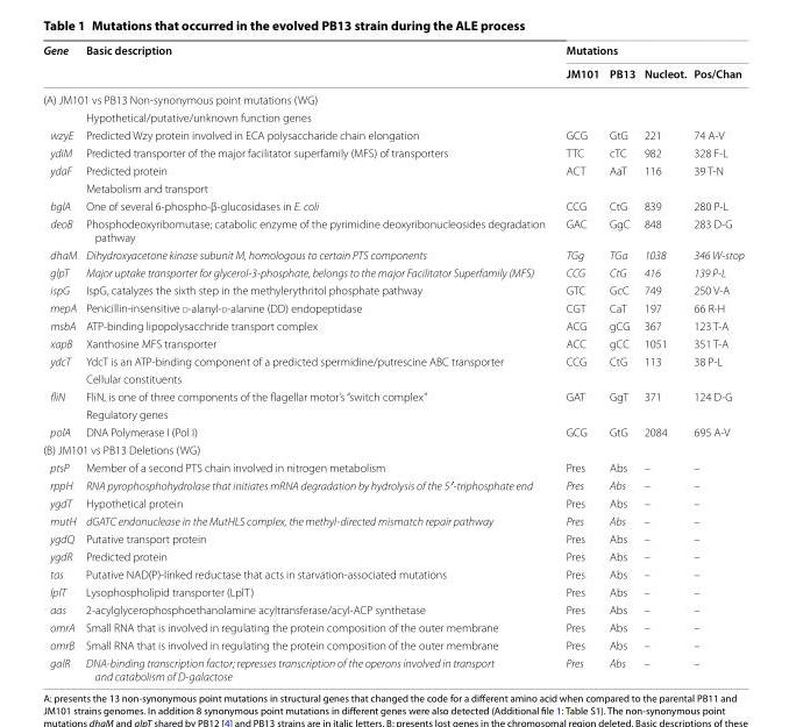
<table><thead><tr><td rowspan="2">Gene</td><td rowspan="2">Basic description</td><td colspan="4">Mutations</td></tr><tr><td>JM101</td><td>PB13</td><td>Nucleot.</td><td>Pos/Chan</td></tr></thead><tbody><tr><td colspan="6">(A) JM101 vs PB13 Non‑synonymous point mutations (WG)</td></tr><tr><td></td><td>Hypothetical/putative/unknown function genes</td><td></td><td></td><td></td><td></td></tr><tr><td>wzyE</td><td>Predicted Wzy protein involved in ECA polysaccharide chain elongation</td><td>GCG</td><td>GtG</td><td>221</td><td>74 A‑V</td></tr><tr><td>ydiM</td><td>Predicted transporter of the major facilitator superfamily (MFS) of transporters</td><td>TTC</td><td>cTC</td><td>982</td><td>328 F‑L</td></tr><tr><td rowspan="2">ydaF</td><td>Predicted protein</td><td>ACT</td><td>AaT</td><td>116</td><td>39 T‑N</td></tr><tr><td>Metabolism and transport</td><td></td><td></td><td></td><td></td></tr><tr><td>bglA</td><td>One of several 6‑phospho‑β‑glucosidases in E. coli</td><td>CCG</td><td>CtG</td><td>839</td><td>280 P‑L</td></tr><tr><td>deoB</td><td>Phosphodeoxyribomutase; catabolic enzyme of the pyrimidine deoxyribonucleosides degradation pathway</td><td>GAC</td><td>GgC</td><td>848</td><td>283 D‑G</td></tr><tr><td>dhaM</td><td>Dihydroxyacetone kinase subunit M, homologous to certain PTS components</td><td>TGg</td><td>TGa</td><td>1038</td><td>346 W-stop</td></tr><tr><td>glpT</td><td>Major uptake transporter for glycerol-3-phosphate, belongs to the major Facilitator Superfamily (MFS)</td><td>CCG</td><td>CtG</td><td>416</td><td>139 P-L</td></tr><tr><td>ispG</td><td>IspG, catalyzes the sixth step in the methylerythritol phosphate pathway</td><td>GTC</td><td>GcC</td><td>749</td><td>250 V‑A</td></tr><tr><td>mepA</td><td>Penicillin‑insensitive d‑alanyl‑d‑alanine (DD) endopeptidase</td><td>CGT</td><td>CaT</td><td>197</td><td>66 R‑H</td></tr><tr><td>msbA</td><td>ATP‑binding lipopolysacchride transport complex</td><td>ACG</td><td>gCG</td><td>367</td><td>123 T‑A</td></tr><tr><td>xapB</td><td>Xanthosine MFS transporter</td><td>ACC</td><td>gCC</td><td>1051</td><td>351 T‑A</td></tr><tr><td rowspan="2">ydcT</td><td>YdcT is an ATP‑binding component of a predicted spermidine/putrescine ABC transporter</td><td>CCG</td><td>CtG</td><td>113</td><td>38 P‑L</td></tr><tr><td>Cellular constituents</td><td></td><td></td><td></td><td></td></tr><tr><td rowspan="2">fliN</td><td>FliN, is one of three components of the flagellar motor’s “switch complex”</td><td>GAT</td><td>GgT</td><td>371</td><td>124 D‑G</td></tr><tr><td>Regulatory genes</td><td></td><td></td><td></td><td></td></tr><tr><td>polA</td><td>DNA Polymerase I (Pol I)</td><td>GCG</td><td>GtG</td><td>2084</td><td>695 A‑V</td></tr><tr><td colspan="6">(B) JM101 vs PB13 Deletions (WG)</td></tr><tr><td>ptsP</td><td>Member of a second PTS chain involved in nitrogen metabolism</td><td>Pres</td><td>Abs</td><td>–</td><td>–</td></tr><tr><td>rppH</td><td>RNA pyrophosphohydrolase that initiates mRNA degradation by hydrolysis of the 5′-triphosphate end</td><td>Pres</td><td>Abs</td><td>–</td><td>–</td></tr><tr><td>ygdT</td><td>Hypothetical protein</td><td>Pres</td><td>Abs</td><td>–</td><td>–</td></tr><tr><td>mutH</td><td>dGATC endonuclease in the MutHLS complex, the methyl-directed mismatch repair pathway</td><td>Pres</td><td>Abs</td><td>–</td><td>–</td></tr><tr><td>ygdQ</td><td>Putative transport protein</td><td>Pres</td><td>Abs</td><td>–</td><td>–</td></tr><tr><td>ygdR</td><td>Predicted protein</td><td>Pres</td><td>Abs</td><td>–</td><td>–</td></tr><tr><td>tas</td><td>Putative NAD(P)‑linked reductase that acts in starvation‑associated mutations</td><td>Pres</td><td>Abs</td><td>–</td><td>–</td></tr><tr><td>lplT</td><td>Lysophospholipid transporter (LplT)</td><td>Pres</td><td>Abs</td><td>–</td><td>–</td></tr><tr><td>aas</td><td>2‑acylglycerophosphoethanolamine acyltransferase/acyl‑ACP synthetase</td><td>Pres</td><td>Abs</td><td>–</td><td>–</td></tr><tr><td>omrA</td><td>Small RNA that is involved in regulating the protein composition of the outer membrane</td><td>Pres</td><td>Abs</td><td>–</td><td>–</td></tr><tr><td>omrB</td><td>Small RNA that is involved in regulating the protein composition of the outer membrane</td><td>Pres</td><td>Abs</td><td>–</td><td>–</td></tr><tr><td>galR</td><td>DNA-binding transcription factor; represses transcription of the operons involved in transport and catabolism of D-galactose</td><td>Pres</td><td>Abs</td><td>–</td><td>–</td></tr></tbody></table>